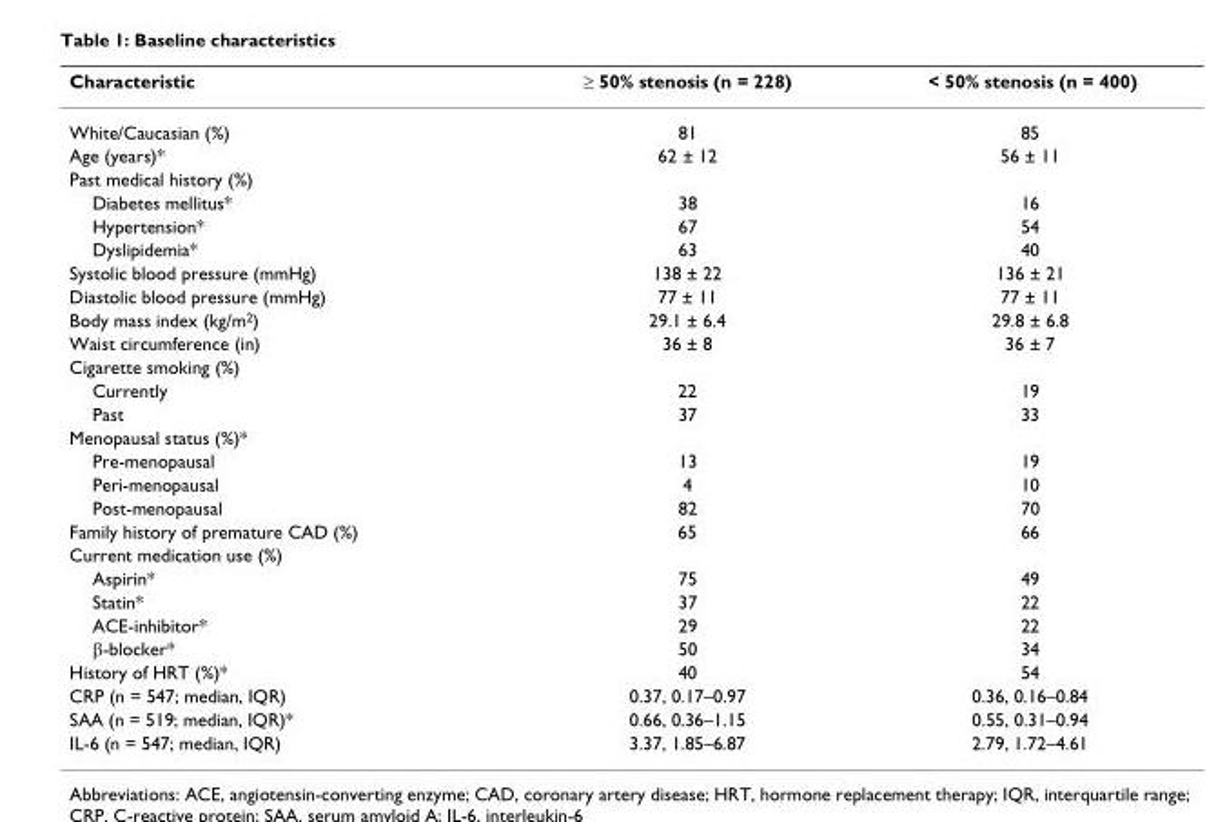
<table><thead><tr><td>Characteristic</td><td>≥ 50% stenosis (n = 228)</td><td>&lt; 50% stenosis (n = 400)</td></tr></thead><tbody><tr><td>White/Caucasian (%)</td><td>81</td><td>85</td></tr><tr><td>Age (years)*</td><td>62 ± 12</td><td>56 ± 11</td></tr><tr><td colspan="3">Past medical history (%)</td></tr><tr><td>Diabetes mellitus*</td><td>38</td><td>16</td></tr><tr><td>Hypertension*</td><td>67</td><td>54</td></tr><tr><td>Dyslipidemia*</td><td>63</td><td>40</td></tr><tr><td>Systolic blood pressure (mmHg)</td><td>138 ± 22</td><td>136 ± 21</td></tr><tr><td>Diastolic blood pressure (mmHg)</td><td>77 ± 11</td><td>77 ± 11</td></tr><tr><td>Body mass index (kg/m<sup>2</sup>)</td><td>29.1 ± 6.4</td><td>29.8 ± 6.8</td></tr><tr><td>Waist circumference (in)</td><td>36 ± 8</td><td>36 ± 7</td></tr><tr><td colspan="3">Cigarette smoking (%)</td></tr><tr><td>Currently</td><td>22</td><td>19</td></tr><tr><td>Past</td><td>37</td><td>33</td></tr><tr><td colspan="3">Menopausal status (%)*</td></tr><tr><td>Pre-menopausal</td><td>13</td><td>19</td></tr><tr><td>Peri-menopausal</td><td>4</td><td>10</td></tr><tr><td>Post-menopausal</td><td>82</td><td>70</td></tr><tr><td>Family history of premature CAD (%)</td><td>65</td><td>66</td></tr><tr><td colspan="3">Current medication use (%)</td></tr><tr><td>Aspirin*</td><td>75</td><td>49</td></tr><tr><td>Statin*</td><td>37</td><td>22</td></tr><tr><td>ACE-inhibitor*</td><td>29</td><td>22</td></tr><tr><td>β-blocker*</td><td>50</td><td>34</td></tr><tr><td>History of HRT (%)*</td><td>40</td><td>54</td></tr><tr><td>CRP (n = 547; median, IQR)</td><td>0.37, 0.17–0.97</td><td>0.36, 0.16–0.84</td></tr><tr><td>SAA (n = 519; median, IQR)*</td><td>0.66, 0.36–1.15</td><td>0.55, 0.31–0.94</td></tr><tr><td>IL-6 (n = 547; median, IQR)</td><td>3.37, 1.85–6.87</td><td>2.79, 1.72–4.61</td></tr></tbody></table>